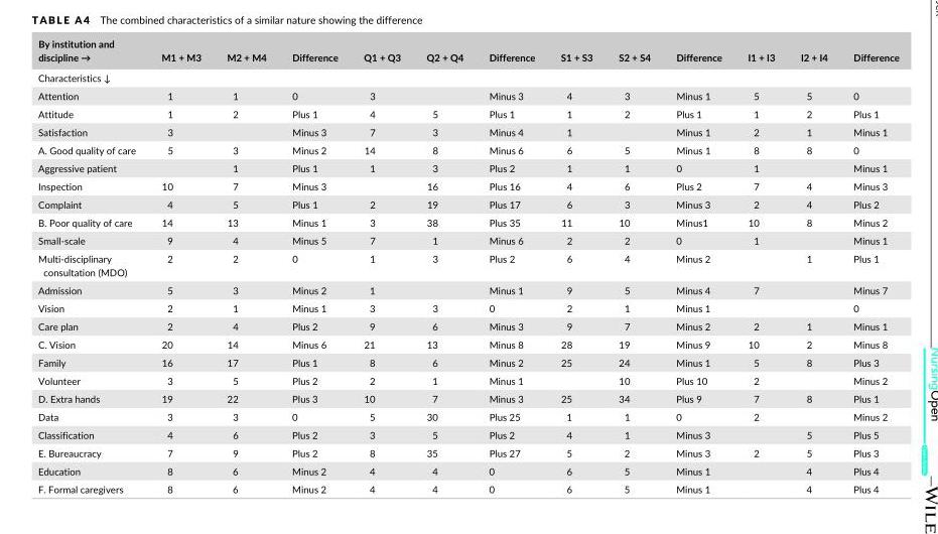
<table><thead><tr><td>By institution and discipline →</td><td>M1 + M3</td><td>M2 + M4</td><td>Difference</td><td>Q1 + Q3</td><td>Q2 + Q4</td><td>Difference</td><td>S1 + S3</td><td>S2 + S4</td><td>Difference</td><td>I1 + I3</td><td>I2 + I4</td><td>Difference</td></tr></thead><tbody><tr><td colspan="13">Characteristics ↓</td></tr><tr><td>Attention</td><td>1</td><td>1</td><td>0</td><td>3</td><td></td><td>Minus 3</td><td>4</td><td>3</td><td>Minus 1</td><td>5</td><td>5</td><td>0</td></tr><tr><td>Attitude</td><td>1</td><td>2</td><td>Plus 1</td><td>4</td><td>5</td><td>Plus 1</td><td>1</td><td>2</td><td>Plus 1</td><td>1</td><td>2</td><td>Plus 1</td></tr><tr><td>Satisfaction</td><td>3</td><td></td><td>Minus 3</td><td>7</td><td>3</td><td>Minus 4</td><td>1</td><td></td><td>Minus 1</td><td>2</td><td>1</td><td>Minus 1</td></tr><tr><td>A. Good quality of care</td><td>5</td><td>3</td><td>Minus 2</td><td>14</td><td>8</td><td>Minus 6</td><td>6</td><td>5</td><td>Minus 1</td><td>8</td><td>8</td><td>0</td></tr><tr><td>Aggressive patient</td><td></td><td>1</td><td>Plus 1</td><td>1</td><td>3</td><td>Plus 2</td><td>1</td><td>1</td><td>0</td><td>1</td><td></td><td>Minus 1</td></tr><tr><td>Inspection</td><td>10</td><td>7</td><td>Minus 3</td><td></td><td>16</td><td>Plus 16</td><td>4</td><td>6</td><td>Plus 2</td><td>7</td><td>4</td><td>Minus 3</td></tr><tr><td>Complaint</td><td>4</td><td>5</td><td>Plus 1</td><td>2</td><td>19</td><td>Plus 17</td><td>6</td><td>3</td><td>Minus 3</td><td>2</td><td>4</td><td>Plus 2</td></tr><tr><td>B. Poor quality of care</td><td>14</td><td>13</td><td>Minus 1</td><td>3</td><td>38</td><td>Plus 35</td><td>11</td><td>10</td><td>Minus1</td><td>10</td><td>8</td><td>Minus 2</td></tr><tr><td>Small- scale</td><td>9</td><td>4</td><td>Minus 5</td><td>7</td><td>1</td><td>Minus 6</td><td>2</td><td>2</td><td>0</td><td>1</td><td></td><td>Minus 1</td></tr><tr><td>Multi- disciplinary consultation (MDO)</td><td>2</td><td>2</td><td>0</td><td>1</td><td>3</td><td>Plus 2</td><td>6</td><td>4</td><td>Minus 2</td><td></td><td>1</td><td>Plus 1</td></tr><tr><td>Admission</td><td>5</td><td>3</td><td>Minus 2</td><td>1</td><td></td><td>Minus 1</td><td>9</td><td>5</td><td>Minus 4</td><td>7</td><td></td><td>Minus 7</td></tr><tr><td>Vision</td><td>2</td><td>1</td><td>Minus 1</td><td>3</td><td>3</td><td>0</td><td>2</td><td>1</td><td>Minus 1</td><td></td><td></td><td>0</td></tr><tr><td>Care plan</td><td>2</td><td>4</td><td>Plus 2</td><td>9</td><td>6</td><td>Minus 3</td><td>9</td><td>7</td><td>Minus 2</td><td>2</td><td>1</td><td>Minus 1</td></tr><tr><td>C. Vision</td><td>20</td><td>14</td><td>Minus 6</td><td>21</td><td>13</td><td>Minus 8</td><td>28</td><td>19</td><td>Minus 9</td><td>10</td><td>2</td><td>Minus 8</td></tr><tr><td>Family</td><td>16</td><td>17</td><td>Plus 1</td><td>8</td><td>6</td><td>Minus 2</td><td>25</td><td>24</td><td>Minus 1</td><td>5</td><td>8</td><td>Plus 3</td></tr><tr><td>Volunteer</td><td>3</td><td>5</td><td>Plus 2</td><td>2</td><td>1</td><td>Minus 1</td><td></td><td>10</td><td>Plus 10</td><td>2</td><td></td><td>Minus 2</td></tr><tr><td>D. Extra hands</td><td>19</td><td>22</td><td>Plus 3</td><td>10</td><td>7</td><td>Minus 3</td><td>25</td><td>34</td><td>Plus 9</td><td>7</td><td>8</td><td>Plus 1</td></tr><tr><td>Data</td><td>3</td><td>3</td><td>0</td><td>5</td><td>30</td><td>Plus 25</td><td>1</td><td>1</td><td>0</td><td>2</td><td></td><td>Minus 2</td></tr><tr><td>Classification</td><td>4</td><td>6</td><td>Plus 2</td><td>3</td><td>5</td><td>Plus 2</td><td>4</td><td>1</td><td>Minus 3</td><td></td><td>5</td><td>Plus 5</td></tr><tr><td>E. Bureaucracy</td><td>7</td><td>9</td><td>Plus 2</td><td>8</td><td>35</td><td>Plus 27</td><td>5</td><td>2</td><td>Minus 3</td><td>2</td><td>5</td><td>Plus 3</td></tr><tr><td>Education</td><td>8</td><td>6</td><td>Minus 2</td><td>4</td><td>4</td><td>0</td><td>6</td><td>5</td><td>Minus 1</td><td></td><td>4</td><td>Plus 4</td></tr><tr><td>F. Formal caregivers</td><td>8</td><td>6</td><td>Minus 2</td><td>4</td><td>4</td><td>0</td><td>6</td><td>5</td><td>Minus 1</td><td></td><td>4</td><td>Plus 4</td></tr></tbody></table>